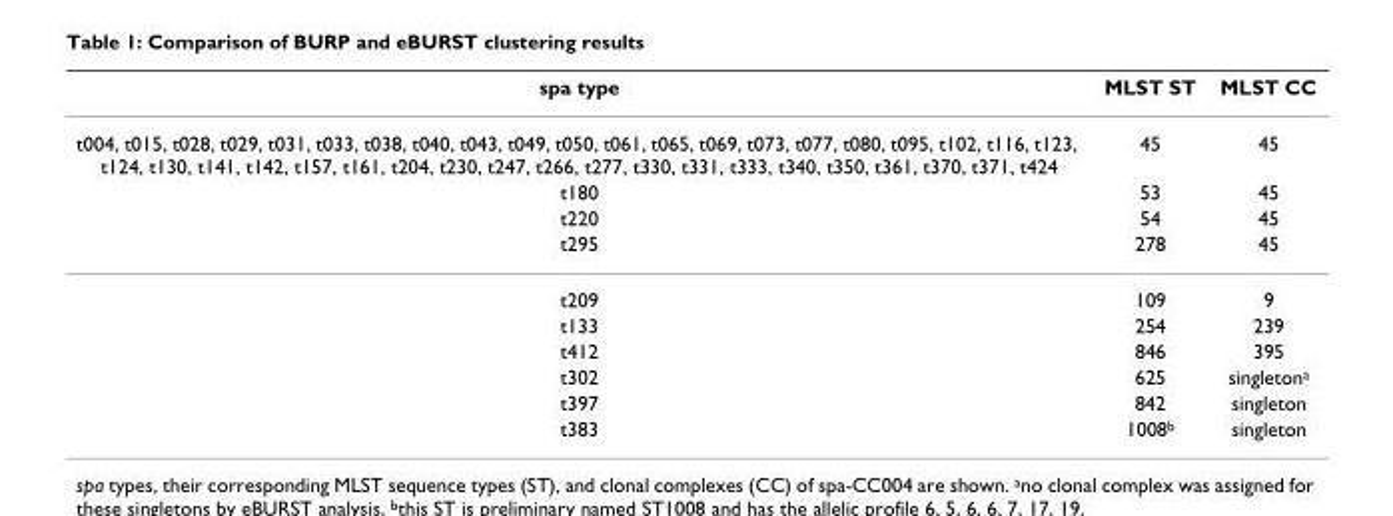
<table><thead><tr><td>spa type</td><td>MLST ST</td><td>MLST CC</td></tr></thead><tbody><tr><td>t004, t015, t028, t029, t031, t033, t038, t040, t043, t049, t050, t061, t065, t069, t073, t077, t080, t095, t102, t116, t123, t124, t130, t141, t142, t157, t161, t204, t230, t247, t266, t277, t330, t331, t333, t340, t350, t361, t370, t371, t424</td><td>45</td><td>45</td></tr><tr><td>t180</td><td>53</td><td>45</td></tr><tr><td>t220</td><td>54</td><td>45</td></tr><tr><td>t295</td><td>278</td><td>45</td></tr><tr><td>t209</td><td>109</td><td>9</td></tr><tr><td>t133</td><td>254</td><td>239</td></tr><tr><td>t412</td><td>846</td><td>395</td></tr><tr><td>t302</td><td>625</td><td>singleton<sup>a</sup></td></tr><tr><td>t397</td><td>842</td><td>singleton</td></tr><tr><td>t383</td><td>1008<sup>b</sup></td><td>singleton</td></tr></tbody></table>